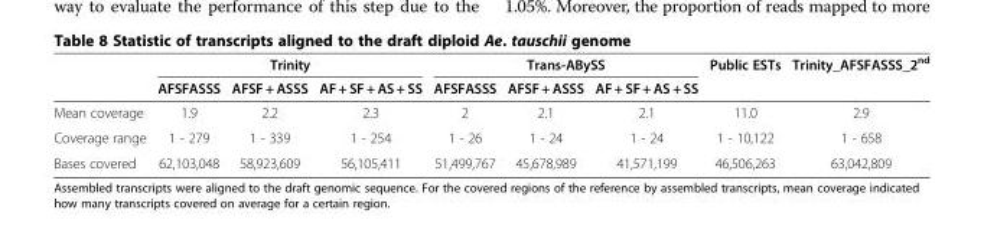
<table><thead><tr><td rowspan="2"></td><td colspan="3">Trinity</td><td colspan="3">Trans-ABySS</td><td rowspan="2">Public ESTs</td><td rowspan="2">Trinity_AFSFASSS_2<sup>nd</sup></td></tr><tr><td>AFSFASSS</td><td>AFSF + ASSS</td><td>AF + SF + AS + SS</td><td>AFSFASSS</td><td>AFSF + ASSS</td><td>AF + SF + AS + SS</td></tr></thead><tbody><tr><td>Mean coverage</td><td>1.9</td><td>2.2</td><td>2.3</td><td>2</td><td>2.1</td><td>2.1</td><td>11.0</td><td>2.9</td></tr><tr><td>Coverage range</td><td>1 - 279</td><td>1 - 339</td><td>1 - 254</td><td>1 - 26</td><td>1 - 24</td><td>1 - 24</td><td>1 - 10,122</td><td>1 - 658</td></tr><tr><td>Bases covered</td><td>62,103,048</td><td>58,923,609</td><td>56,105,411</td><td>51,499,767</td><td>45,678,989</td><td>41,571,199</td><td>46,506,263</td><td>63,042,809</td></tr></tbody></table>